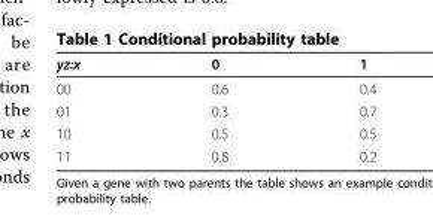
<table><thead><tr><td>yz:x</td><td>0</td><td>1</td></tr></thead><tbody><tr><td>00</td><td>0.6</td><td>0.4</td></tr><tr><td>01</td><td>0.3</td><td>0.7</td></tr><tr><td>10</td><td>0.5</td><td>0.5</td></tr><tr><td>11</td><td>0.8</td><td>0.2</td></tr></tbody></table>